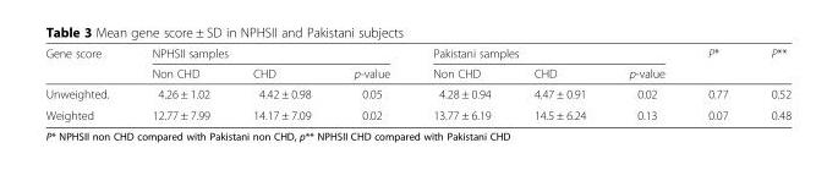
<table><thead><tr><td rowspan="2">Gene score</td><td colspan="3">NPHSII samples</td><td colspan="3">Pakistani samples</td><td rowspan="2">P*</td><td rowspan="2">P**</td></tr><tr><td>Non CHD</td><td>CHD</td><td>p-value</td><td>Non CHD</td><td>CHD</td><td>p-value</td></tr></thead><tbody><tr><td>Unweighted.</td><td>4.26 ± 1.02</td><td>4.42 ± 0.98</td><td>0.05</td><td>4.28 ± 0.94</td><td>4.47 ± 0.91</td><td>0.02</td><td>0.77</td><td>0.52</td></tr><tr><td>Weighted</td><td>12.77 ± 7.99</td><td>14.17 ± 7.09</td><td>0.02</td><td>13.77 ± 6.19</td><td>14.5 ± 6.24</td><td>0.13</td><td>0.07</td><td>0.48</td></tr></tbody></table>